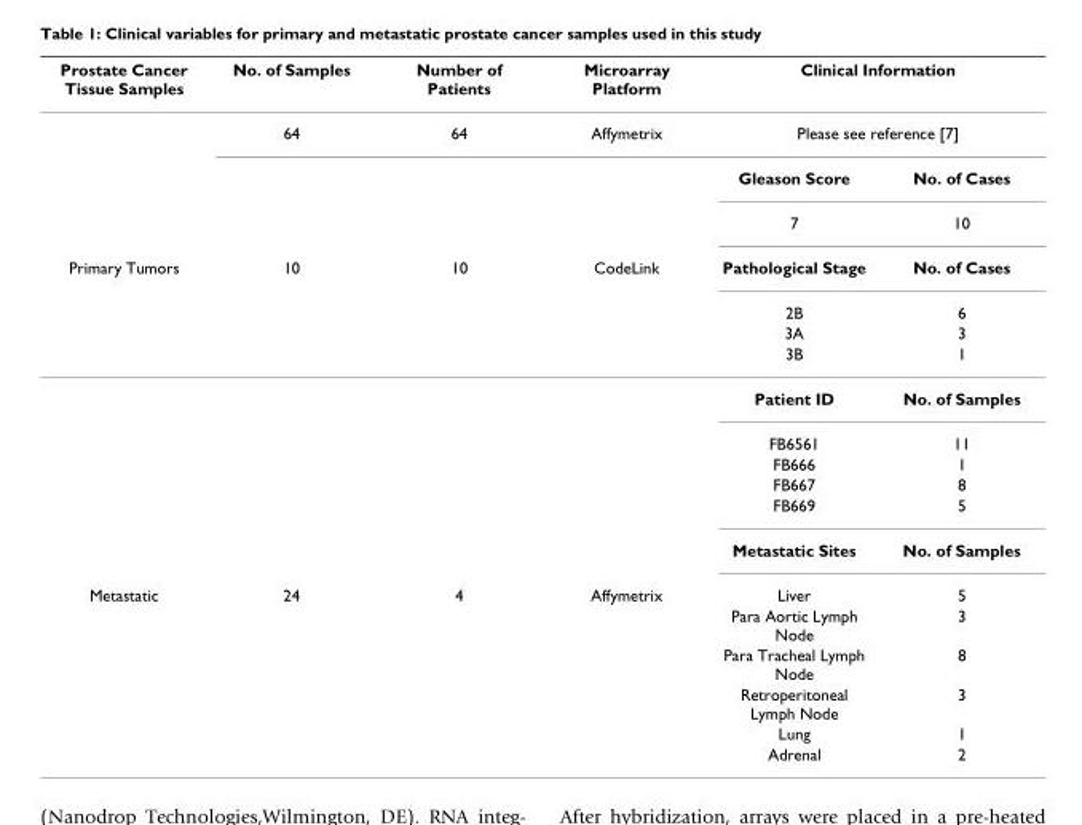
<table><thead><tr><td rowspan="3">Prostate Cancer Tissue Samples</td><td rowspan="3">No. of Samples 64</td><td rowspan="3">Number of Patients 64</td><td rowspan="3">Microarray Platform Affymetrix</td><td rowspan="2" colspan="2">Clinical Information Please see reference [7]</td></tr><tr></tr><tr><td>Gleason Score</td><td>No. of Cases</td></tr></thead><tbody><tr><td></td><td></td><td></td><td></td><td>7</td><td>10</td></tr><tr><td rowspan="10">Primary Tumors</td><td>10</td><td>10</td><td>CodeLink</td><td>Pathological Stage</td><td>No. of Cases</td></tr><tr><td></td><td></td><td></td><td>2B</td><td>6</td></tr><tr><td></td><td></td><td></td><td>3A</td><td>3</td></tr><tr><td></td><td></td><td></td><td>3B</td><td>1</td></tr><tr><td></td><td></td><td></td><td>Patient ID</td><td>No. of Samples</td></tr><tr><td></td><td></td><td></td><td>FB6561</td><td>11</td></tr><tr><td></td><td></td><td></td><td>FB666</td><td>1</td></tr><tr><td></td><td></td><td></td><td>FB667</td><td>8</td></tr><tr><td></td><td></td><td></td><td>FB669</td><td>5</td></tr><tr><td></td><td></td><td></td><td>Metastatic Sites</td><td>No. of Samples</td></tr><tr><td rowspan="6">Metastatic</td><td>24</td><td>4</td><td>Affymetrix</td><td>Liver</td><td>5</td></tr><tr><td></td><td></td><td></td><td>Para Aortic Lymph Node</td><td>3</td></tr><tr><td></td><td></td><td></td><td>Para Tracheal Lymph Node</td><td>8</td></tr><tr><td></td><td></td><td></td><td>Retroperitoneal Lymph Node</td><td>3</td></tr><tr><td></td><td></td><td></td><td>Lung</td><td>1</td></tr><tr><td></td><td></td><td></td><td>Adrenal</td><td>2</td></tr></tbody></table>